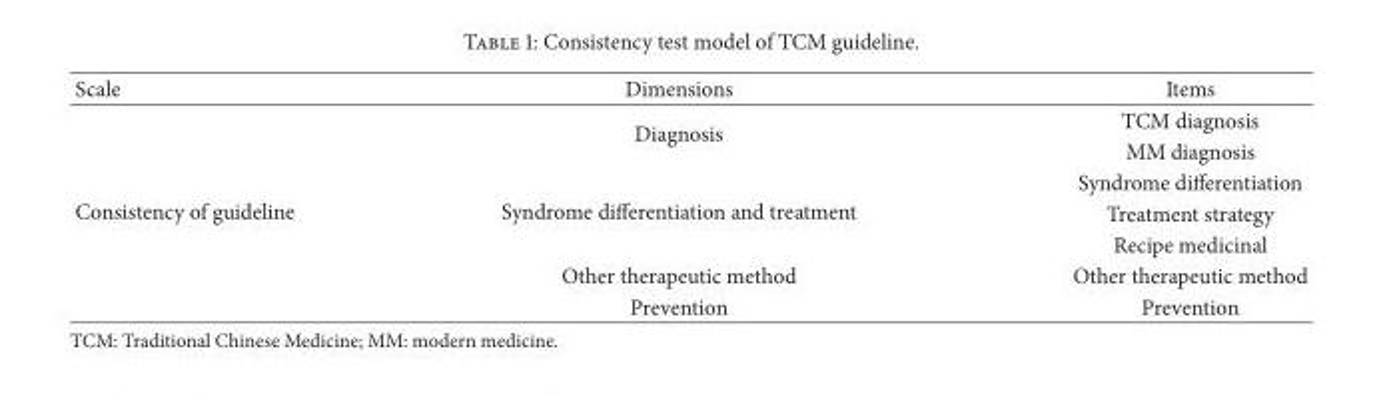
<table><thead><tr><td>Scale</td><td>Dimensions</td><td>Items</td></tr></thead><tbody><tr><td rowspan="7">Consistency of guideline</td><td rowspan="2">Diagnosis</td><td>TCM diagnosis</td></tr><tr><td>MM diagnosis</td></tr><tr><td rowspan="3">Syndrome differentiation and treatment</td><td>Syndrome differentiation</td></tr><tr><td>Treatment strategy</td></tr><tr><td>Recipe medicinal</td></tr><tr><td>Other therapeutic method</td><td>Other therapeutic method</td></tr><tr><td>Prevention</td><td>Prevention</td></tr></tbody></table>